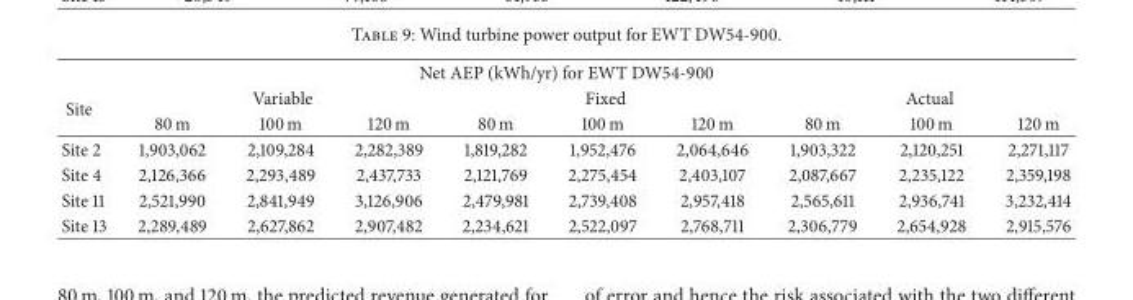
<table><thead><tr><td colspan="10">Net AEP (kWh/yr) for EWT DW54-900</td></tr><tr><td rowspan="2">Site</td><td colspan="3">Variable</td><td colspan="3">Fixed</td><td colspan="3">Actual</td></tr><tr><td>80 m</td><td>100 m</td><td>120 m</td><td>80 m</td><td>100 m</td><td>120 m</td><td>80 m</td><td>100 m</td><td>120 m</td></tr></thead><tbody><tr><td>Site 2</td><td>1,903,062</td><td>2,109,284</td><td>2,282,389</td><td>1,819,282</td><td>1,952,476</td><td>2,064,646</td><td>1,903,322</td><td>2,120,251</td><td>2,271,117</td></tr><tr><td>Site 4</td><td>2,126,366</td><td>2,293,489</td><td>2,437,733</td><td>2,121,769</td><td>2,275,454</td><td>2,403,107</td><td>2,087,667</td><td>2,235,122</td><td>2,359,198</td></tr><tr><td>Site 11</td><td>2,521,990</td><td>2,841,949</td><td>3,126,906</td><td>2,479,981</td><td>2,739,408</td><td>2,957,418</td><td>2,565,611</td><td>2,936,741</td><td>3,232,414</td></tr><tr><td>Site 13</td><td>2,289,489</td><td>2,627,862</td><td>2,907,482</td><td>2,234,621</td><td>2,522,097</td><td>2,768,711</td><td>2,306,779</td><td>2,654,928</td><td>2,915,576</td></tr></tbody></table>